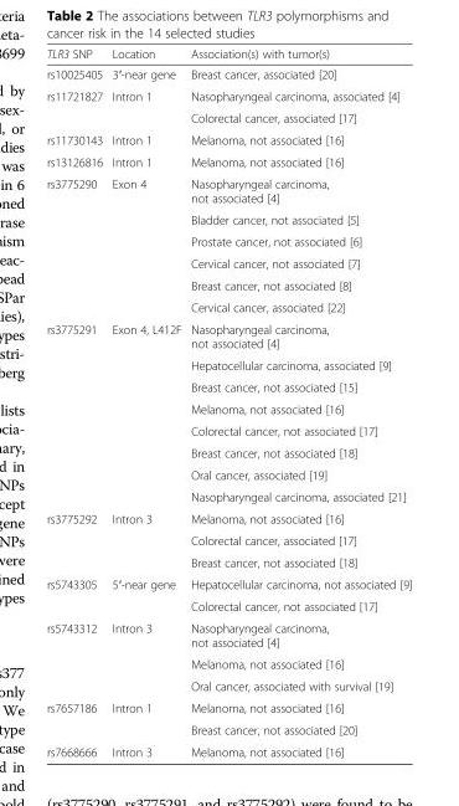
<table><thead><tr><td>TLR3 SNP</td><td>Location</td><td>Association(s) with tumor(s)</td></tr></thead><tbody><tr><td>rs10025405</td><td>3′-near gene</td><td>Breast cancer, associated [20]</td></tr><tr><td rowspan="2">rs11721827</td><td>Intron 1</td><td>Nasopharyngeal carcinoma, associated [4]</td></tr><tr><td></td><td>Colorectal cancer, associated [17]</td></tr><tr><td>rs11730143</td><td>Intron 1</td><td>Melanoma, not associated [16]</td></tr><tr><td>rs13126816</td><td>Intron 1</td><td>Melanoma, not associated [16]</td></tr><tr><td rowspan="6">rs3775290</td><td>Exon 4</td><td>Nasopharyngeal carcinoma, not associated [4]</td></tr><tr><td></td><td>Bladder cancer, not associated [5]</td></tr><tr><td></td><td>Prostate cancer, not associated [6]</td></tr><tr><td></td><td>Cervical cancer, not associated [7]</td></tr><tr><td></td><td>Breast cancer, not associated [8]</td></tr><tr><td></td><td>Cervical cancer, associated [22]</td></tr><tr><td rowspan="8">rs3775291</td><td>Exon 4, L412F</td><td>Nasopharyngeal carcinoma, not associated [4]</td></tr><tr><td></td><td>Hepatocellular carcinoma, associated [9]</td></tr><tr><td></td><td>Breast cancer, not associated [15]</td></tr><tr><td></td><td>Melanoma, not associated [16]</td></tr><tr><td></td><td>Colorectal cancer, not associated [17]</td></tr><tr><td></td><td>Breast cancer, not associated [18]</td></tr><tr><td></td><td>Oral cancer, associated [19]</td></tr><tr><td></td><td>Nasopharyngeal carcinoma, associated [21]</td></tr><tr><td rowspan="3">rs3775292</td><td>Intron 3</td><td>Melanoma, not associated [16]</td></tr><tr><td></td><td>Colorectal cancer, associated [17]</td></tr><tr><td></td><td>Breast cancer, not associated [18]</td></tr><tr><td rowspan="2">rs5743305</td><td>5′-near gene</td><td>Hepatocellular carcinoma, not associated [9]</td></tr><tr><td></td><td>Colorectal cancer, not associated [17]</td></tr><tr><td rowspan="3">rs5743312</td><td>Intron 3</td><td>Nasopharyngeal carcinoma, not associated [4]</td></tr><tr><td></td><td>Melanoma, not associated [16]</td></tr><tr><td></td><td>Oral cancer, associated with survival [19]</td></tr><tr><td rowspan="2">rs7657186</td><td>Intron 1</td><td>Melanoma, not associated [16]</td></tr><tr><td></td><td>Breast cancer, not associated [20]</td></tr><tr><td>rs7668666</td><td>Intron 3</td><td>Melanoma, not associated [16]</td></tr></tbody></table>